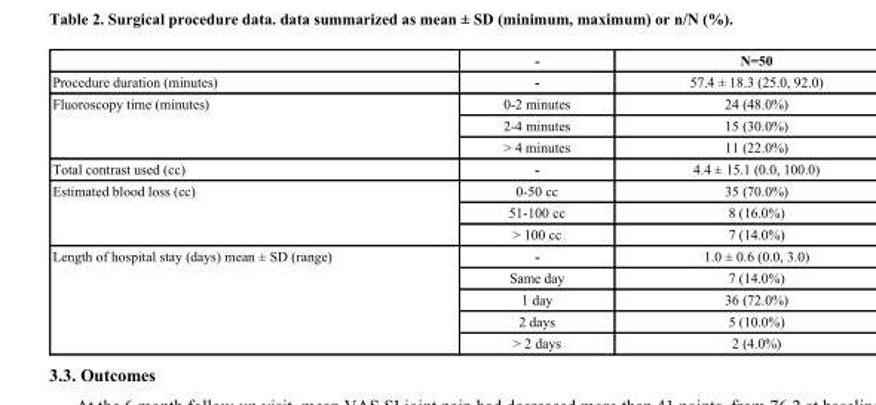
<table><thead><tr><td></td><td>-</td><td>N=50</td></tr></thead><tbody><tr><td>Procedure duration (minutes)</td><td>-</td><td>57.4 ± 18.3 (25.0, 92.0)</td></tr><tr><td rowspan="3">Fluoroscopy time (minutes)</td><td>0-2 minutes</td><td>24 (48.0%)</td></tr><tr><td>2-4 minutes</td><td>15 (30.0%)</td></tr><tr><td>&gt; 4 minutes</td><td>11 (22.0%)</td></tr><tr><td>Total contrast used (cc)</td><td>-</td><td>4.4 ± 15.1 (0.0, 100.0)</td></tr><tr><td rowspan="3">Estimated blood loss (cc)</td><td>0-50 cc</td><td>35 (70.0%)</td></tr><tr><td>51-100 cc</td><td>8 (16.0%)</td></tr><tr><td>&gt; 100 cc</td><td>7 (14.0%)</td></tr><tr><td rowspan="5">Length of hospital stay (days) mean ± SD (range)</td><td>-</td><td>1.0 ± 0.6 (0.0, 3.0)</td></tr><tr><td>Same day</td><td>7 (14.0%)</td></tr><tr><td>1 day</td><td>36 (72.0%)</td></tr><tr><td>2 days</td><td>5 (10.0%)</td></tr><tr><td>&gt; 2 days</td><td>2 (4.0%)</td></tr></tbody></table>